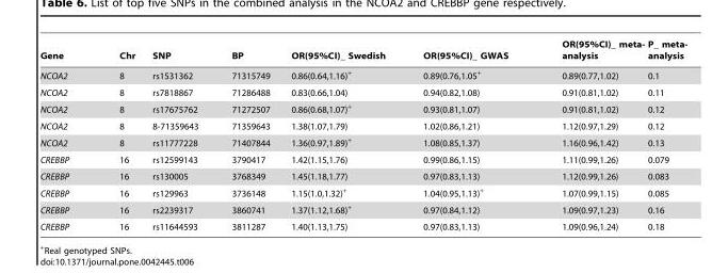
<table><thead><tr><td>Gene</td><td>Chr</td><td>SNP</td><td>BP</td><td>OR(95%CI)_ Swedish</td><td>OR(95%CI)_ GWAS</td><td>OR(95%CI)_ meta- analysis</td><td>P_ meta- analysis</td></tr></thead><tbody><tr><td>NCOA2</td><td>8</td><td>rs1531362</td><td>71315749</td><td>0.86(0.64,1.16)+</td><td>0.89(0.76,1.05+</td><td>0.89(0.77,1.02)</td><td>0.1</td></tr><tr><td>NCOA2</td><td>8</td><td>rs7818867</td><td>71286488</td><td>0.83(0.66,1.04)</td><td>0.94(0.82,1.08)</td><td>0.91(0.81,1.02)</td><td>0.11</td></tr><tr><td>NCOA2</td><td>8</td><td>rs17675762</td><td>71272507</td><td>0.86(0.68,1.07)+</td><td>0.93(0.81,1.07)</td><td>0.91(0.81,1.02)</td><td>0.12</td></tr><tr><td>NCOA2</td><td>8</td><td>8-71359643</td><td>71359643</td><td>1.38(1.07,1.79)</td><td>1.02(0.86,1.21)</td><td>1.12(0.97,1.29)</td><td>0.12</td></tr><tr><td>NCOA2</td><td>8</td><td>rs11777228</td><td>71407844</td><td>1.36(0.97,1.89)+</td><td>1.08(0.85,1.37)</td><td>1.16(0.96,1.42)</td><td>0.13</td></tr><tr><td>CREBBP</td><td>16</td><td>rs12599143</td><td>3790417</td><td>1.42(1.15,1.76)</td><td>0.99(0.86,1.15)</td><td>1.11(0.99,1.26)</td><td>0.079</td></tr><tr><td>CREBBP</td><td>16</td><td>rs130005</td><td>3768349</td><td>1.45(1.18,1.77)</td><td>0.97(0.83,1.13)</td><td>1.12(0.99,1.26)</td><td>0.083</td></tr><tr><td>CREBBP</td><td>16</td><td>rs129963</td><td>3736148</td><td>1.15(1.0,1.32)+</td><td>1.04(0.95,1.13)+</td><td>1.07(0.99,1.15)</td><td>0.085</td></tr><tr><td>CREBBP</td><td>16</td><td>rs2239317</td><td>3860741</td><td>1.37(1.12,1.68)+</td><td>0.97(0.84,1.12)</td><td>1.09(0.97,1.23)</td><td>0.16</td></tr><tr><td>CREBBP</td><td>16</td><td>rs11644593</td><td>3811287</td><td>1.40(1.13,1.75)</td><td>0.97(0.83,1.13)</td><td>1.09(0.96,1.24)</td><td>0.18</td></tr></tbody></table>